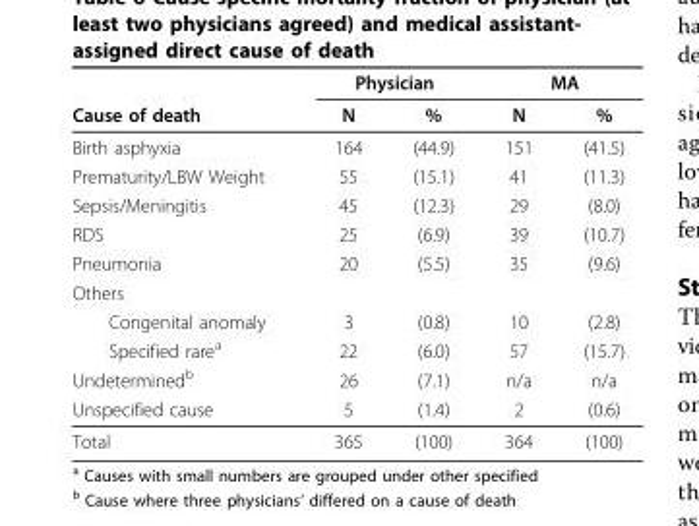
<table><thead><tr><td rowspan="12">Cause of death Birth asphyxia Prematurity/LBW Weight Sepsis/Meningitis RDS Pneumonia Others Congenital anomaly Specified rarea Undeterminedb Unspecified cause</td><td colspan="2">Physician</td><td colspan="2">MA</td></tr><tr><td rowspan="11">N 164 55 45 25 20 3 22 26 5</td><td rowspan="11">% (44.9) (15.1) (12.3) (6.9) (5.5) (0.8) (6.0) (7.1) (1.4)</td><td rowspan="11">N 151 41 29 39 35 10 57 n/a 2</td><td rowspan="11">% (41.5) (11.3) (8.0) (10.7) (9.6) (2.8) (15.7) n/a (0.6)</td></tr><tr></tr><tr></tr><tr></tr><tr></tr><tr></tr><tr></tr><tr></tr><tr></tr><tr></tr><tr></tr></thead><tbody><tr><td>Total</td><td>365</td><td>(100)</td><td>364</td><td>(100)</td></tr></tbody></table>